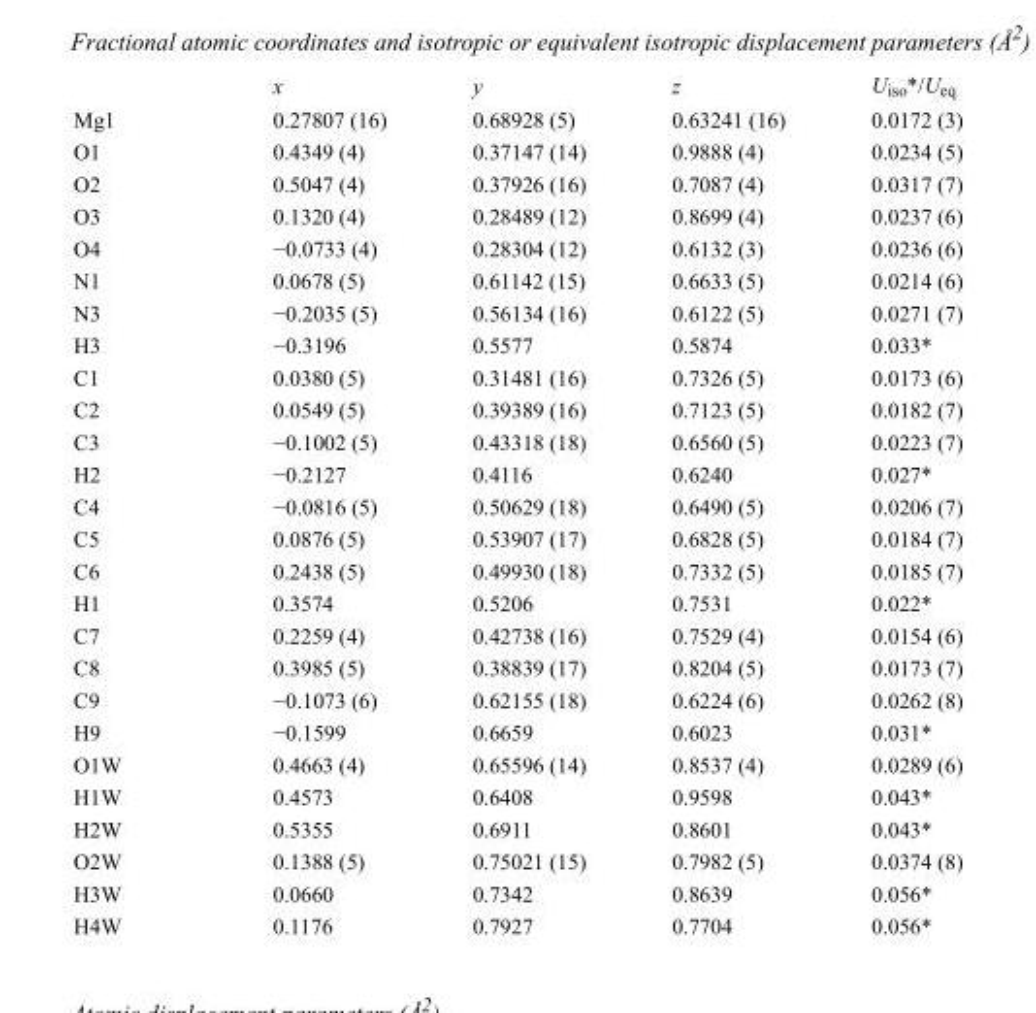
<table><thead><tr><td></td><td>x</td><td>y</td><td>z</td><td>U<sub>iso</sub>*/U<sub>eq</sub></td></tr></thead><tbody><tr><td>Mg1</td><td>0.27807 (16)</td><td>0.68928 (5)</td><td>0.63241 (16)</td><td>0.0172 (3)</td></tr><tr><td>O1</td><td>0.4349 (4)</td><td>0.37147 (14)</td><td>0.9888 (4)</td><td>0.0234 (5)</td></tr><tr><td>O2</td><td>0.5047 (4)</td><td>0.37926 (16)</td><td>0.7087 (4)</td><td>0.0317 (7)</td></tr><tr><td>O3</td><td>0.1320 (4)</td><td>0.28489 (12)</td><td>0.8699 (4)</td><td>0.0237 (6)</td></tr><tr><td>O4</td><td>−0.0733 (4)</td><td>0.28304 (12)</td><td>0.6132 (3)</td><td>0.0236 (6)</td></tr><tr><td>N1</td><td>0.0678 (5)</td><td>0.61142 (15)</td><td>0.6633 (5)</td><td>0.0214 (6)</td></tr><tr><td>N3</td><td>−0.2035 (5)</td><td>0.56134 (16)</td><td>0.6122 (5)</td><td>0.0271 (7)</td></tr><tr><td>H3</td><td>−0.3196</td><td>0.5577</td><td>0.5874</td><td>0.033*</td></tr><tr><td>C1</td><td>0.0380 (5)</td><td>0.31481 (16)</td><td>0.7326 (5)</td><td>0.0173 (6)</td></tr><tr><td>C2</td><td>0.0549 (5)</td><td>0.39389 (16)</td><td>0.7123 (5)</td><td>0.0182 (7)</td></tr><tr><td>C3</td><td>−0.1002 (5)</td><td>0.43318 (18)</td><td>0.6560 (5)</td><td>0.0223 (7)</td></tr><tr><td>H2</td><td>−0.2127</td><td>0.4116</td><td>0.6240</td><td>0.027*</td></tr><tr><td>C4</td><td>−0.0816 (5)</td><td>0.50629 (18)</td><td>0.6490 (5)</td><td>0.0206 (7)</td></tr><tr><td>C5</td><td>0.0876 (5)</td><td>0.53907 (17)</td><td>0.6828 (5)</td><td>0.0184 (7)</td></tr><tr><td>C6</td><td>0.2438 (5)</td><td>0.49930 (18)</td><td>0.7332 (5)</td><td>0.0185 (7)</td></tr><tr><td>H1</td><td>0.3574</td><td>0.5206</td><td>0.7531</td><td>0.022*</td></tr><tr><td>C7</td><td>0.2259 (4)</td><td>0.42738 (16)</td><td>0.7529 (4)</td><td>0.0154 (6)</td></tr><tr><td>C8</td><td>0.3985 (5)</td><td>0.38839 (17)</td><td>0.8204 (5)</td><td>0.0173 (7)</td></tr><tr><td>C9</td><td>−0.1073 (6)</td><td>0.62155 (18)</td><td>0.6224 (6)</td><td>0.0262 (8)</td></tr><tr><td>H9</td><td>−0.1599</td><td>0.6659</td><td>0.6023</td><td>0.031*</td></tr><tr><td>O1W</td><td>0.4663 (4)</td><td>0.65596 (14)</td><td>0.8537 (4)</td><td>0.0289 (6)</td></tr><tr><td>H1W</td><td>0.4573</td><td>0.6408</td><td>0.9598</td><td>0.043*</td></tr><tr><td>H2W</td><td>0.5355</td><td>0.6911</td><td>0.8601</td><td>0.043*</td></tr><tr><td>O2W</td><td>0.1388 (5)</td><td>0.75021 (15)</td><td>0.7982 (5)</td><td>0.0374 (8)</td></tr><tr><td>H3W</td><td>0.0660</td><td>0.7342</td><td>0.8639</td><td>0.056*</td></tr><tr><td>H4W</td><td>0.1176</td><td>0.7927</td><td>0.7704</td><td>0.056*</td></tr></tbody></table>